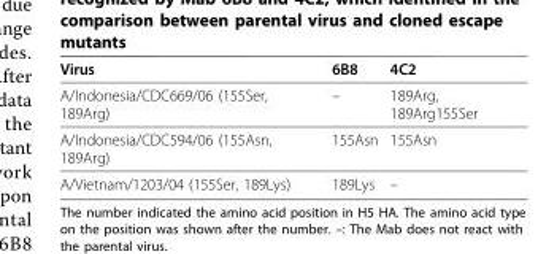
<table><thead><tr><td>Virus</td><td>6B8</td><td>4C2</td></tr></thead><tbody><tr><td>A/Indonesia/CDC669/06 (155Ser, 189Arg)</td><td>–</td><td>189Arg, 189Arg155Ser</td></tr><tr><td>A/Indonesia/CDC594/06 (155Asn, 189Arg)</td><td>155Asn</td><td>155Asn</td></tr><tr><td>A/Vietnam/1203/04 (155Ser, 189Lys)</td><td>189Lys</td><td>–</td></tr></tbody></table>